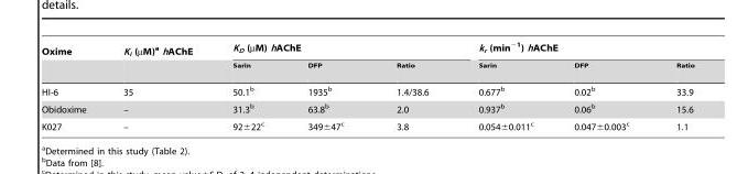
<table><thead><tr><td rowspan="2">Oxime</td><td rowspan="2">K<sub>i</sub> (µM)<sup>a</sup> hAChE</td><td colspan="3">K<sub>D</sub> (µM) hAChE</td><td colspan="3">k<sub>r</sub> (min<sup>−1</sup>) hAChE</td></tr><tr><td><sup>Sarin</sup></td><td><sup>DFP</sup></td><td><sup>Ratio</sup></td><td><sup>Sarin</sup></td><td><sup>DFP</sup></td><td><sup>Ratio</sup></td></tr></thead><tbody><tr><td>HI-6</td><td>35</td><td>50.1<sup>b</sup></td><td>1935<sup>b</sup></td><td>1.4/38.6</td><td>0.677<sup>b</sup></td><td>0.02<sup>b</sup></td><td>33.9</td></tr><tr><td>Obidoxime</td><td>–</td><td>31.3<sup>b</sup></td><td>63.8<sup>b</sup></td><td>2.0</td><td>0.937<sup>b</sup></td><td>0.06<sup>b</sup></td><td>15.6</td></tr><tr><td>K027</td><td>–</td><td>92±22<sup>c</sup></td><td>349±47<sup>c</sup></td><td>3.8</td><td>0.054±0.011<sup>c</sup></td><td>0.047±0.003<sup>c</sup></td><td>1.1</td></tr></tbody></table>